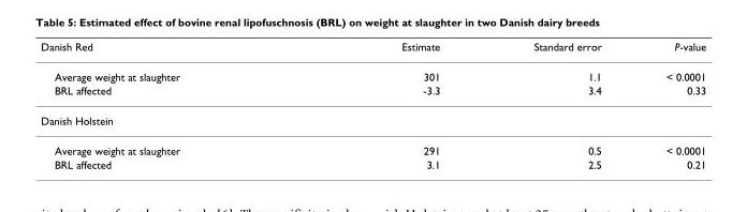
<table><thead><tr><td>Danish Red</td><td>Estimate</td><td>Standard error</td><td>P-value</td></tr></thead><tbody><tr><td>Average weight at slaughter</td><td>301</td><td>1.1</td><td>&lt; 0.0001</td></tr><tr><td>BRL affected</td><td>-3.3</td><td>3.4</td><td>0.33</td></tr><tr><td colspan="4">Danish Holstein</td></tr><tr><td>Average weight at slaughter</td><td>291</td><td>0.5</td><td>&lt; 0.0001</td></tr><tr><td>BRL affected</td><td>3.1</td><td>2.5</td><td>0.21</td></tr></tbody></table>